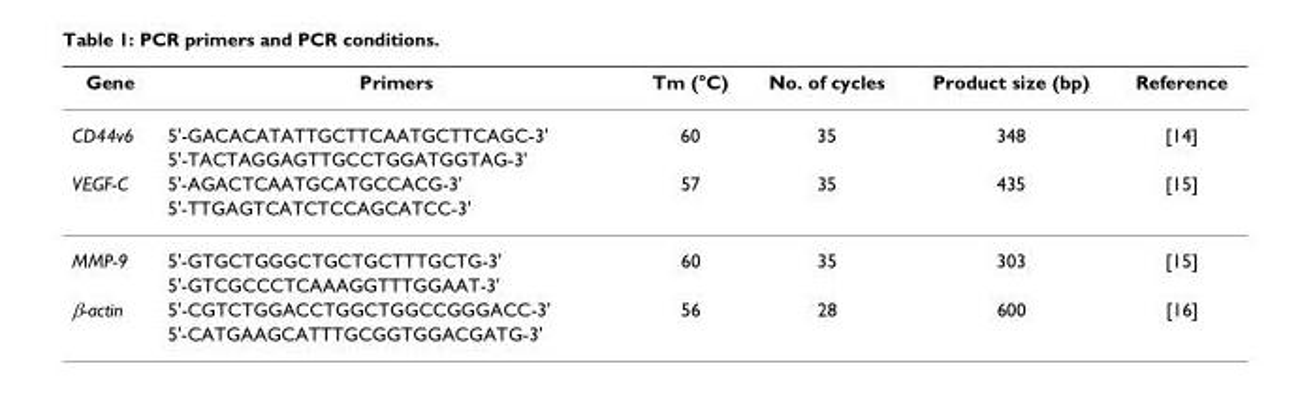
<table><thead><tr><td>Gene</td><td>Primers</td><td>Tm (°C)</td><td>No. of cycles</td><td>Product size (bp)</td><td>Reference</td></tr></thead><tbody><tr><td rowspan="2">CD44v6</td><td>5&#x27;-GACACATATTGCTTCAATGCTTCAGC-3&#x27;</td><td>60</td><td>35</td><td>348</td><td>[14]</td></tr><tr><td>5&#x27;-TACTAGGAGTTGCCTGGATGGTAG-3&#x27;</td><td></td><td></td><td></td><td></td></tr><tr><td rowspan="2">VEGF-C</td><td>5&#x27;-AGACTCAATGCATGCCACG-3&#x27;</td><td>57</td><td>35</td><td>435</td><td>[15]</td></tr><tr><td>5&#x27;-TTGAGTCATCTCCAGCATCC-3&#x27;</td><td></td><td></td><td></td><td></td></tr><tr><td rowspan="2">MMP-9</td><td>5&#x27;-GTGCTGGGCTGCTGCTTTGCTG-3&#x27;</td><td>60</td><td>35</td><td>303</td><td>[15]</td></tr><tr><td>5&#x27;-GTCGCCCTCAAAGGTTTGGAAT-3&#x27;</td><td></td><td></td><td></td><td></td></tr><tr><td rowspan="2">β-actin</td><td>5&#x27;-CGTCTGGACCTGGCTGGCCGGGACC-3&#x27;</td><td>56</td><td>28</td><td>600</td><td>[16]</td></tr><tr><td>5&#x27;-CATGAAGCATTTGCGGTGGACGATG-3&#x27;</td><td></td><td></td><td></td><td></td></tr></tbody></table>